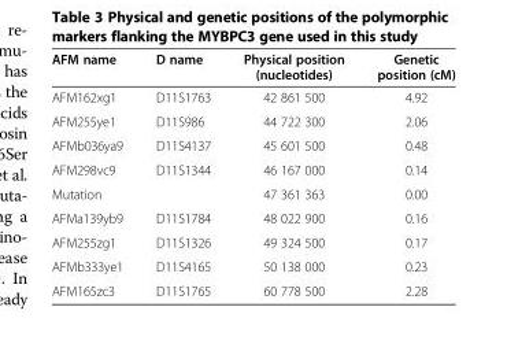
<table><thead><tr><td>AFM name</td><td>D name</td><td>Physical position (nucleotides)</td><td>Genetic position (cM)</td></tr></thead><tbody><tr><td>AFM162xg1</td><td>D11S1763</td><td>42 861 500</td><td>4.92</td></tr><tr><td>AFM255ye1</td><td>D11S986</td><td>44 722 300</td><td>2.06</td></tr><tr><td>AFMb036ya9</td><td>D11S4137</td><td>45 601 500</td><td>0.48</td></tr><tr><td>AFM298vc9</td><td>D11S1344</td><td>46 167 000</td><td>0.14</td></tr><tr><td>Mutation</td><td></td><td>47 361 363</td><td>0.00</td></tr><tr><td>AFMa139yb9</td><td>D11S1784</td><td>48 022 900</td><td>0.16</td></tr><tr><td>AFM255zg1</td><td>D11S1326</td><td>49 324 500</td><td>0.17</td></tr><tr><td>AFMb333ye1</td><td>D11S4165</td><td>50 138 000</td><td>0.23</td></tr><tr><td>AFM165zc3</td><td>D11S1765</td><td>60 778 500</td><td>2.28</td></tr></tbody></table>